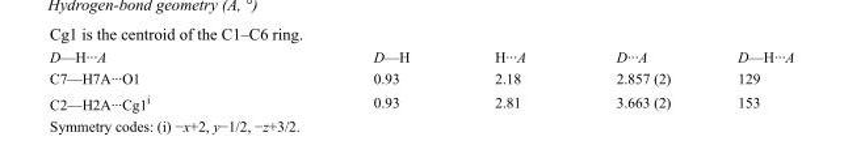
<table><tbody><tr><td>D—H···A</td><td>D—H</td><td>H···A</td><td>D···A</td><td>D—H···A</td></tr><tr><td>C7—H7A···O1</td><td>0.93</td><td>2.18</td><td>2.857 (2)</td><td>129</td></tr><tr><td>C2—H2A···Cg1<sup>i</sup></td><td>0.93</td><td>2.81</td><td>3.663 (2)</td><td>153</td></tr></tbody></table>